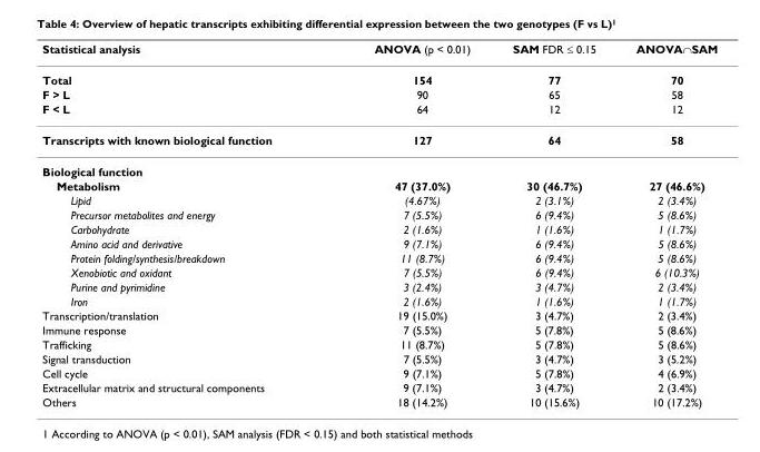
<table><thead><tr><td>Statistical analysis</td><td>ANOVA (p &lt; 0.01)</td><td>SAM FDR ≤ 0.15</td><td>ANOVA∩SAM</td></tr></thead><tbody><tr><td>Total</td><td>154</td><td>77</td><td>70</td></tr><tr><td>F &gt; L</td><td>90</td><td>65</td><td>58</td></tr><tr><td>F &lt; L</td><td>64</td><td>12</td><td>12</td></tr><tr><td>Transcripts with known biological function</td><td>127</td><td>64</td><td>58</td></tr><tr><td colspan="4">Biological function</td></tr><tr><td>Metabolism</td><td>47 (37.0%)</td><td>30 (46.7%)</td><td>27 (46.6%)</td></tr><tr><td>Lipid</td><td>(4.67%)</td><td>2 (3.1%)</td><td>2 (3.4%)</td></tr><tr><td>Precursor metabolites and energy</td><td>7 (5.5%)</td><td>6 (9.4%)</td><td>5 (8.6%)</td></tr><tr><td>Carbohydrate</td><td>2 (1.6%)</td><td>1 (1.6%)</td><td>1 (1.7%)</td></tr><tr><td>Amino acid and derivative</td><td>9 (7.1%)</td><td>6 (9.4%)</td><td>5 (8.6%)</td></tr><tr><td>Protein folding/synthesis/breakdown</td><td>11 (8.7%)</td><td>6 (9.4%)</td><td>5 (8.6%)</td></tr><tr><td>Xenobiotic and oxidant</td><td>7 (5.5%)</td><td>6 (9.4%)</td><td>6 (10.3%)</td></tr><tr><td>Purine and pyrimidine</td><td>3 (2.4%)</td><td>3 (4.7%)</td><td>2 (3.4%)</td></tr><tr><td>Iron</td><td>2 (1.6%)</td><td>1 (1.6%)</td><td>1 (1.7%)</td></tr><tr><td>Transcription/translation</td><td>19 (15.0%)</td><td>3 (4.7%)</td><td>2 (3.4%)</td></tr><tr><td>Immune response</td><td>7 (5.5%)</td><td>5 (7.8%)</td><td>5 (8.6%)</td></tr><tr><td>Trafficking</td><td>11 (8.7%)</td><td>5 (7.8%)</td><td>5 (8.6%)</td></tr><tr><td>Signal transduction</td><td>7 (5.5%)</td><td>3 (4.7%)</td><td>3 (5.2%)</td></tr><tr><td>Cell cycle</td><td>9 (7.1%)</td><td>5 (7.8%)</td><td>4 (6.9%)</td></tr><tr><td>Extracellular matrix and structural components</td><td>9 (7.1%)</td><td>3 (4.7%)</td><td>2 (3.4%)</td></tr><tr><td>Others</td><td>18 (14.2%)</td><td>10 (15.6%)</td><td>10 (17.2%)</td></tr></tbody></table>